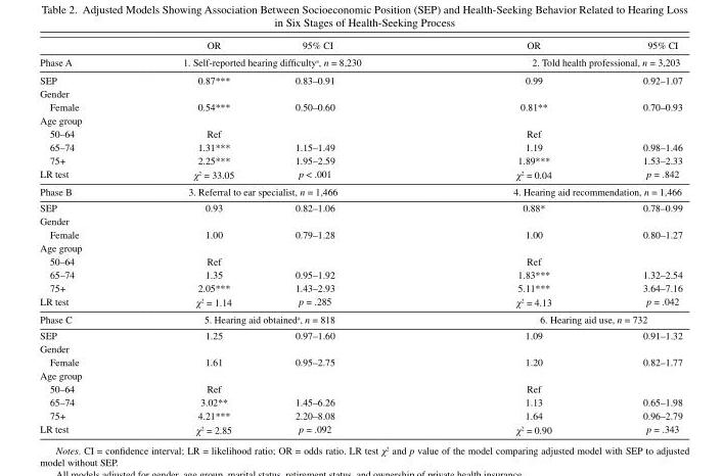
<table><thead><tr><td rowspan="2">Phase A</td><td>OR</td><td>95% CI</td><td>OR</td><td>95% CI</td></tr><tr><td colspan="2">1. Self-reported hearing difficulty<sup>a</sup>, n = 8,230</td><td colspan="2">2. Told health professional, n = 3,203</td></tr></thead><tbody><tr><td>SEP</td><td>0.87***</td><td>0.83–0.91</td><td>0.99</td><td>0.92–1.07</td></tr><tr><td colspan="5">Gender</td></tr><tr><td>Female</td><td>0.54***</td><td>0.50–0.60</td><td>0.81**</td><td>0.70–0.93</td></tr><tr><td colspan="5">Age group</td></tr><tr><td>50–64</td><td>Ref</td><td></td><td>Ref</td><td></td></tr><tr><td>65–74</td><td>1.31***</td><td>1.15–1.49</td><td>1.19</td><td>0.98–1.46</td></tr><tr><td>75+</td><td>2.25***</td><td>1.95–2.59</td><td>1.89***</td><td>1.53–2.33</td></tr><tr><td>LR test</td><td>χ<sup>2</sup> = 33.05</td><td>p &lt; .001</td><td>χ<sup>2</sup> = 0.04</td><td>p = .842</td></tr><tr><td>Phase B</td><td colspan="2">3. Referral to ear specialist, n = 1,466</td><td colspan="2">4. Hearing aid recommendation, n = 1,466</td></tr><tr><td>SEP</td><td>0.93</td><td>0.82–1.06</td><td>0.88*</td><td>0.78–0.99</td></tr><tr><td colspan="5">Gender</td></tr><tr><td>Female</td><td>1.00</td><td>0.79–1.28</td><td>1.00</td><td>0.80–1.27</td></tr><tr><td colspan="5">Age group</td></tr><tr><td>50–64</td><td>Ref</td><td></td><td>Ref</td><td></td></tr><tr><td>65–74</td><td>1.35</td><td>0.95–1.92</td><td>1.83***</td><td>1.32–2.54</td></tr><tr><td>75+</td><td>2.05***</td><td>1.43–2.93</td><td>5.11***</td><td>3.64–7.16</td></tr><tr><td>LR test</td><td>χ<sup>2</sup> = 1.14</td><td>p = .285</td><td>χ<sup>2</sup> = 4.13</td><td>p = .042</td></tr><tr><td>Phase C</td><td colspan="2">5. Hearing aid obtained<sup>a</sup>, n = 818</td><td colspan="2">6. Hearing aid use, n = 732</td></tr><tr><td>SEP</td><td>1.25</td><td>0.97–1.60</td><td>1.09</td><td>0.91–1.32</td></tr><tr><td colspan="5">Gender</td></tr><tr><td>Female</td><td>1.61</td><td>0.95–2.75</td><td>1.20</td><td>0.82–1.77</td></tr><tr><td colspan="5">Age group</td></tr><tr><td>50–64</td><td>Ref</td><td></td><td>Ref</td><td></td></tr><tr><td>65–74</td><td>3.02**</td><td>1.45–6.26</td><td>1.13</td><td>0.65–1.98</td></tr><tr><td>75+</td><td>4.21***</td><td>2.20–8.08</td><td>1.64</td><td>0.96–2.79</td></tr><tr><td>LR test</td><td>χ<sup>2</sup> = 2.85</td><td>p = .092</td><td>χ<sup>2</sup> = 0.90</td><td>p = .343</td></tr></tbody></table>